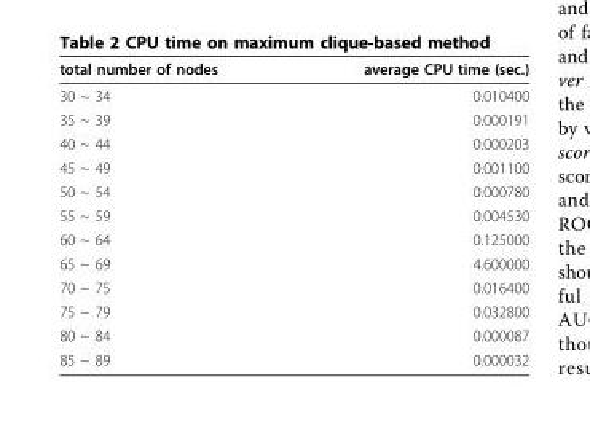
<table><thead><tr><td>total number of nodes</td><td>average CPU time (sec.)</td></tr></thead><tbody><tr><td>30 ~ 34</td><td>0.010400</td></tr><tr><td>35 ~ 39</td><td>0.000191</td></tr><tr><td>40 ~ 44</td><td>0.000203</td></tr><tr><td>45 ~ 49</td><td>0.001100</td></tr><tr><td>50 ~ 54</td><td>0.000780</td></tr><tr><td>55 ~ 59</td><td>0.004530</td></tr><tr><td>60 ~ 64</td><td>0.125000</td></tr><tr><td>65 ~ 69</td><td>4.600000</td></tr><tr><td>70 ~ 75</td><td>0.016400</td></tr><tr><td>75 ~ 79</td><td>0.032800</td></tr><tr><td>80 ~ 84</td><td>0.000087</td></tr><tr><td>85 ~ 89</td><td>0.000032</td></tr></tbody></table>